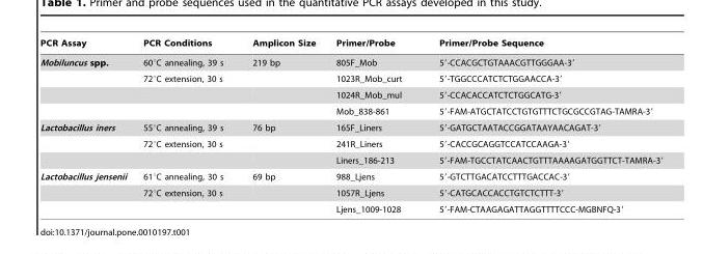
<table><thead><tr><td>PCR Assay</td><td>PCR Conditions</td><td>Amplicon Size</td><td>Primer/Probe</td><td>Primer/Probe Sequence</td></tr></thead><tbody><tr><td rowspan="4">Mobiluncus spp.</td><td>60°C annealing, 39 s</td><td>219 bp</td><td>805F_Mob</td><td>5′-CCACGCTGTAAACGTTGGGAA-3′</td></tr><tr><td>72°C extension, 30 s</td><td></td><td>1023R_Mob_curt</td><td>5′-TGGCCCATCTCTGGAACCA-3′</td></tr><tr><td></td><td></td><td>1024R_Mob_mul</td><td>5′-CCACACCATCTCTGGCATG-3′</td></tr><tr><td></td><td></td><td>Mob_838-861</td><td>5′-FAM-ATGCTATCCTGTGTTTCTGCGCCGTAG-TAMRA-3′</td></tr><tr><td rowspan="3">Lactobacillus iners</td><td>55°C annealing, 39 s</td><td>76 bp</td><td>165F_Liners</td><td>5′-GATGCTAATACCGGATAAYAACAGAT-3′</td></tr><tr><td>72°C extension, 30 s</td><td></td><td>241R_Liners</td><td>5′-CACCGCAGGTCCATCCAAGA-3′</td></tr><tr><td></td><td></td><td>Liners_186-213</td><td>5′-FAM-TGCCTATCAACTGTTTAAAAGATGGTTCT-TAMRA-3′</td></tr><tr><td rowspan="3">Lactobacillus jensenii</td><td>61°C annealing, 30 s</td><td>69 bp</td><td>988_Ljens</td><td>5′-GTCTTGACATCCTTTGACCAC-3′</td></tr><tr><td>72°C extension, 30 s</td><td></td><td>1057R_Ljens</td><td>5′-CATGCACCACCTGTCTCTTT-3′</td></tr><tr><td></td><td></td><td>Ljens_1009-1028</td><td>5′-FAM-CTAAGAGATTAGGTTTTCCC-MGBNFQ-3′</td></tr></tbody></table>